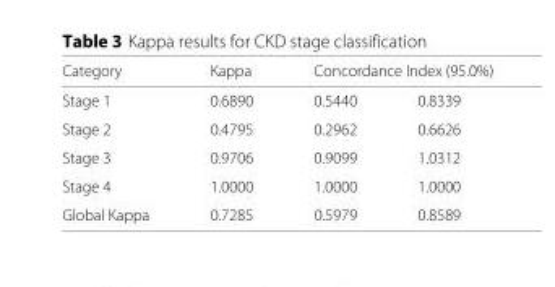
<table><thead><tr><td rowspan="2">Category Stage 1</td><td rowspan="2">Kappa 0.6890</td><td colspan="2">Concordance Index (95.0%)</td></tr><tr><td>0.5440</td><td>0.8339</td></tr></thead><tbody><tr><td>Stage 2</td><td>0.4795</td><td>0.2962</td><td>0.6626</td></tr><tr><td>Stage 3</td><td>0.9706</td><td>0.9099</td><td>1.0312</td></tr><tr><td>Stage 4</td><td>1.0000</td><td>1.0000</td><td>1.0000</td></tr><tr><td>Global Kappa</td><td>0.7285</td><td>0.5979</td><td>0.8589</td></tr></tbody></table>